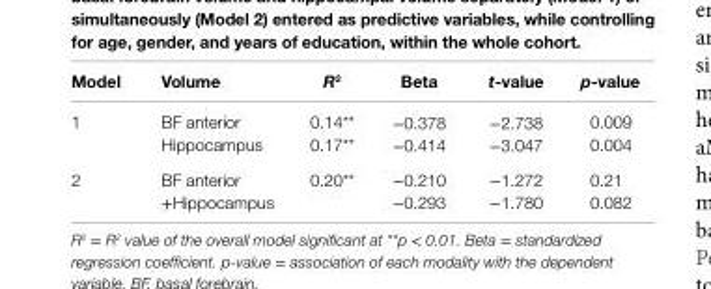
<table><thead><tr><td>Model</td><td>Volume</td><td>R<sup>2</sup></td><td>Beta</td><td>t-value</td><td>p-value</td></tr></thead><tbody><tr><td>1</td><td>BF anterior Hippocampus</td><td>0.14** 0.17**</td><td>−0.378 −0.414</td><td>−2.738 −3.047</td><td>0.009 0.004</td></tr><tr><td>2</td><td>BF anterior +Hippocampus</td><td>0.20**</td><td>−0.210 −0.293</td><td>−1.272 −1.780</td><td>0.21 0.082</td></tr></tbody></table>